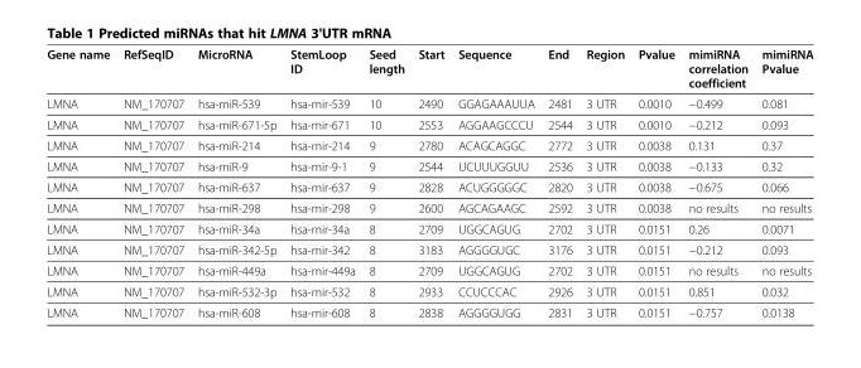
<table><thead><tr><td>Gene name</td><td>RefSeqID</td><td>MicroRNA</td><td>StemLoop ID</td><td>Seed length</td><td>Start</td><td>Sequence</td><td>End</td><td>Region</td><td>Pvalue</td><td>mimiRNA correlation coefficient</td><td>mimiRNA Pvalue</td></tr></thead><tbody><tr><td>LMNA</td><td>NM_170707</td><td>hsa-miR-539</td><td>hsa-mir-539</td><td>10</td><td>2490</td><td>GGAGAAAUUA</td><td>2481</td><td>3 UTR</td><td>0.0010</td><td>−0.499</td><td>0.081</td></tr><tr><td>LMNA</td><td>NM_170707</td><td>hsa-miR-671-5p</td><td>hsa-mir-671</td><td>10</td><td>2553</td><td>AGGAAGCCCU</td><td>2544</td><td>3 UTR</td><td>0.0010</td><td>−0.212</td><td>0.093</td></tr><tr><td>LMNA</td><td>NM_170707</td><td>hsa-miR-214</td><td>hsa-mir-214</td><td>9</td><td>2780</td><td>ACAGCAGGC</td><td>2772</td><td>3 UTR</td><td>0.0038</td><td>0.131</td><td>0.37</td></tr><tr><td>LMNA</td><td>NM_170707</td><td>hsa-miR-9</td><td>hsa-mir-9-1</td><td>9</td><td>2544</td><td>UCUUUGGUU</td><td>2536</td><td>3 UTR</td><td>0.0038</td><td>−0.133</td><td>0.32</td></tr><tr><td>LMNA</td><td>NM_170707</td><td>hsa-miR-637</td><td>hsa-mir-637</td><td>9</td><td>2828</td><td>ACUGGGGGC</td><td>2820</td><td>3 UTR</td><td>0.0038</td><td>−0.675</td><td>0.066</td></tr><tr><td>LMNA</td><td>NM_170707</td><td>hsa-miR-298</td><td>hsa-mir-298</td><td>9</td><td>2600</td><td>AGCAGAAGC</td><td>2592</td><td>3 UTR</td><td>0.0038</td><td>no results</td><td>no results</td></tr><tr><td>LMNA</td><td>NM_170707</td><td>hsa-miR-34a</td><td>hsa-mir-34a</td><td>8</td><td>2709</td><td>UGGCAGUG</td><td>2702</td><td>3 UTR</td><td>0.0151</td><td>0.26</td><td>0.0071</td></tr><tr><td>LMNA</td><td>NM_170707</td><td>hsa-miR-342-5p</td><td>hsa-mir-342</td><td>8</td><td>3183</td><td>AGGGGUGC</td><td>3176</td><td>3 UTR</td><td>0.0151</td><td>−0.212</td><td>0.093</td></tr><tr><td>LMNA</td><td>NM_170707</td><td>hsa-miR-449a</td><td>hsa-mir-449a</td><td>8</td><td>2709</td><td>UGGCAGUG</td><td>2702</td><td>3 UTR</td><td>0.0151</td><td>no results</td><td>no results</td></tr><tr><td>LMNA</td><td>NM_170707</td><td>hsa-miR-532-3p</td><td>hsa-mir-532</td><td>8</td><td>2933</td><td>CCUCCCAC</td><td>2926</td><td>3 UTR</td><td>0.0151</td><td>0.851</td><td>0.032</td></tr><tr><td>LMNA</td><td>NM_170707</td><td>hsa-miR-608</td><td>hsa-mir-608</td><td>8</td><td>2838</td><td>AGGGGUGG</td><td>2831</td><td>3 UTR</td><td>0.0151</td><td>−0.757</td><td>0.0138</td></tr></tbody></table>